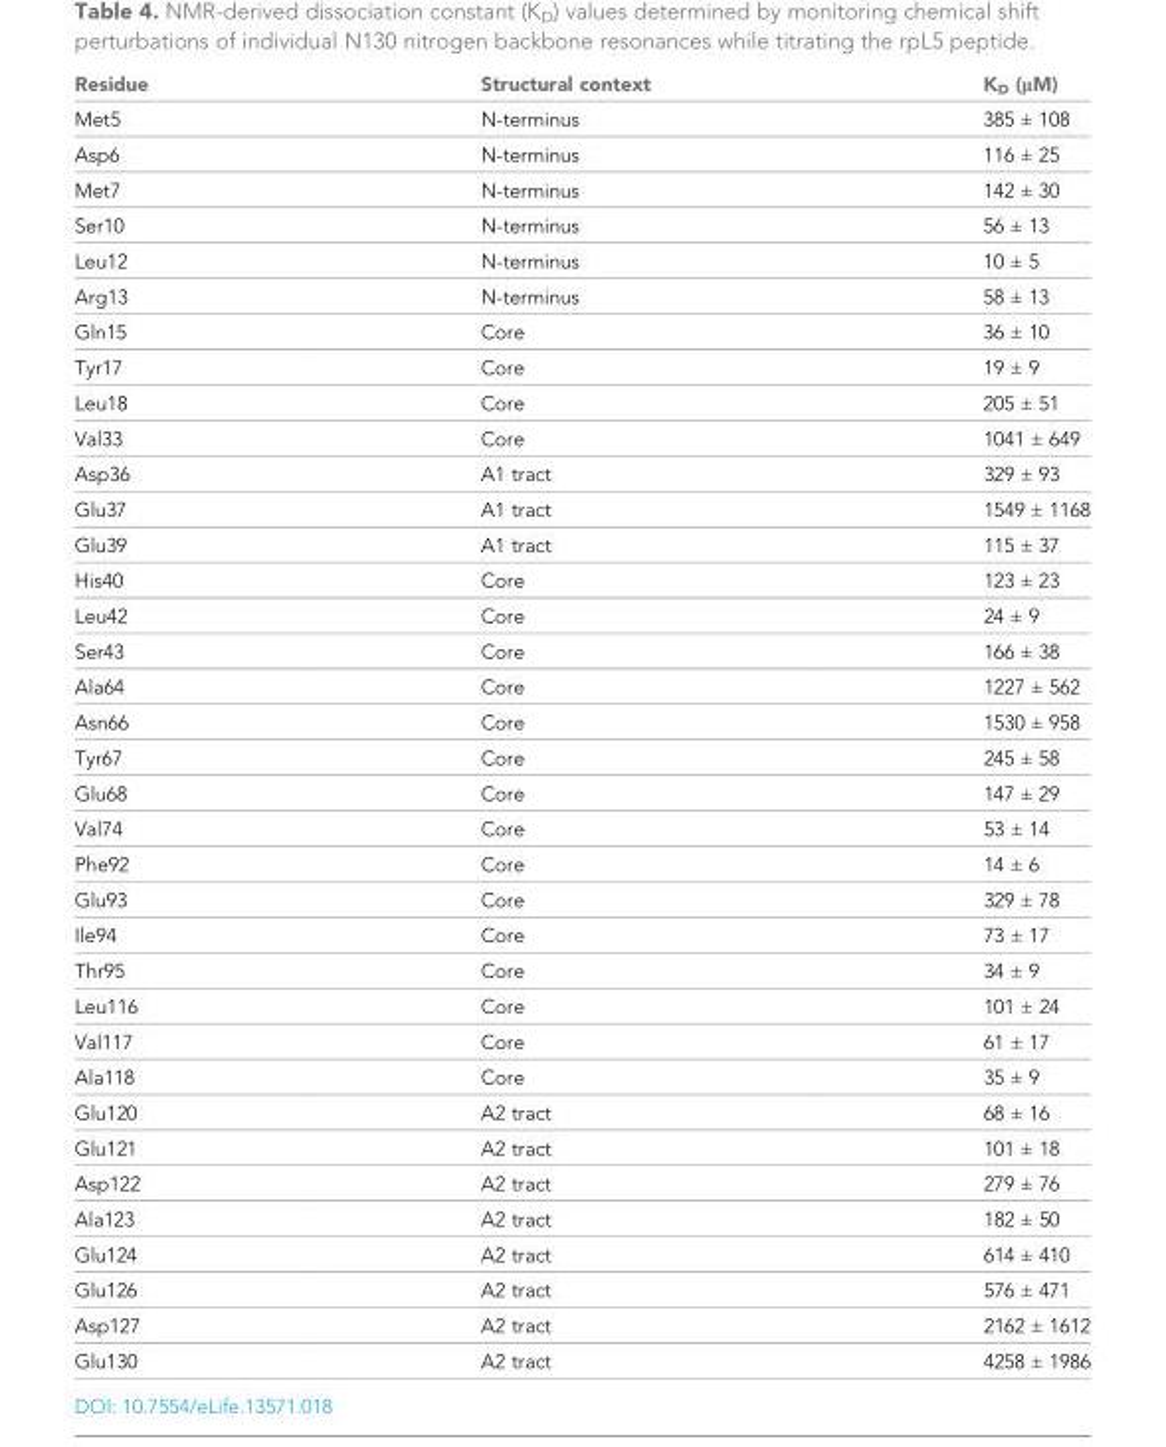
<table><thead><tr><td>Residue</td><td>Structural context</td><td>K<sub>D</sub> (μM)</td></tr></thead><tbody><tr><td>Met5</td><td>N-terminus</td><td>385 ± 108</td></tr><tr><td>Asp6</td><td>N-terminus</td><td>116 ± 25</td></tr><tr><td>Met7</td><td>N-terminus</td><td>142 ± 30</td></tr><tr><td>Ser10</td><td>N-terminus</td><td>56 ± 13</td></tr><tr><td>Leu12</td><td>N-terminus</td><td>10 ± 5</td></tr><tr><td>Arg13</td><td>N-terminus</td><td>58 ± 13</td></tr><tr><td>Gln15</td><td>Core</td><td>36 ± 10</td></tr><tr><td>Tyr17</td><td>Core</td><td>19 ± 9</td></tr><tr><td>Leu18</td><td>Core</td><td>205 ± 51</td></tr><tr><td>Val33</td><td>Core</td><td>1041 ± 649</td></tr><tr><td>Asp36</td><td>A1 tract</td><td>329 ± 93</td></tr><tr><td>Glu37</td><td>A1 tract</td><td>1549 ± 1168</td></tr><tr><td>Glu39</td><td>A1 tract</td><td>115 ± 37</td></tr><tr><td>His40</td><td>Core</td><td>123 ± 23</td></tr><tr><td>Leu42</td><td>Core</td><td>24 ± 9</td></tr><tr><td>Ser43</td><td>Core</td><td>166 ± 38</td></tr><tr><td>Ala64</td><td>Core</td><td>1227 ± 562</td></tr><tr><td>Asn66</td><td>Core</td><td>1530 ± 958</td></tr><tr><td>Tyr67</td><td>Core</td><td>245 ± 58</td></tr><tr><td>Glu68</td><td>Core</td><td>147 ± 29</td></tr><tr><td>Val74</td><td>Core</td><td>53 ± 14</td></tr><tr><td>Phe92</td><td>Core</td><td>14 ± 6</td></tr><tr><td>Glu93</td><td>Core</td><td>329 ± 78</td></tr><tr><td>Ile94</td><td>Core</td><td>73 ± 17</td></tr><tr><td>Thr95</td><td>Core</td><td>34 ± 9</td></tr><tr><td>Leu116</td><td>Core</td><td>101 ± 24</td></tr><tr><td>Val117</td><td>Core</td><td>61 ± 17</td></tr><tr><td>Ala118</td><td>Core</td><td>35 ± 9</td></tr><tr><td>Glu120</td><td>A2 tract</td><td>68 ± 16</td></tr><tr><td>Glu121</td><td>A2 tract</td><td>101 ± 18</td></tr><tr><td>Asp122</td><td>A2 tract</td><td>279 ± 76</td></tr><tr><td>Ala123</td><td>A2 tract</td><td>182 ± 50</td></tr><tr><td>Glu124</td><td>A2 tract</td><td>614 ± 410</td></tr><tr><td>Glu126</td><td>A2 tract</td><td>576 ± 471</td></tr><tr><td>Asp127</td><td>A2 tract</td><td>2162 ± 1612</td></tr><tr><td>Glu130</td><td>A2 tract</td><td>4258 ± 1986</td></tr></tbody></table>